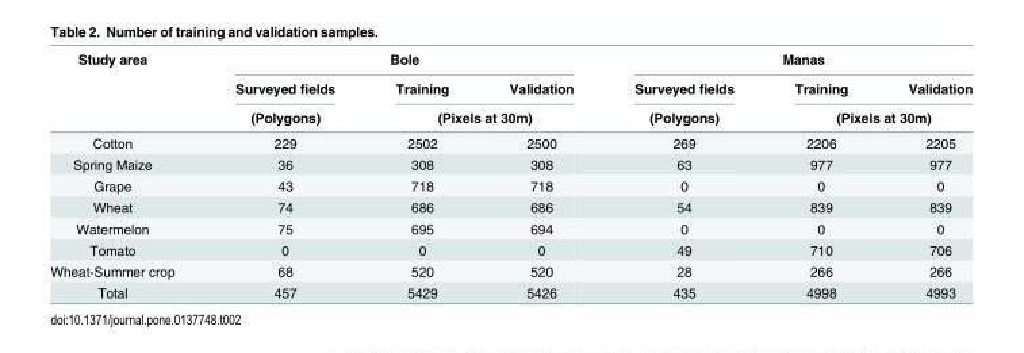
<table><thead><tr><td rowspan="3">Study area</td><td colspan="3">Bole</td><td colspan="3">Manas</td></tr><tr><td rowspan="2">Surveyed fields (Polygons)</td><td>Training</td><td>Validation</td><td rowspan="2">Surveyed fields (Polygons)</td><td>Training</td><td>Validation</td></tr><tr><td colspan="2">(Pixels at 30m)</td><td colspan="2">(Pixels at 30m)</td></tr></thead><tbody><tr><td>Cotton</td><td>229</td><td>2502</td><td>2500</td><td>269</td><td>2206</td><td>2205</td></tr><tr><td>Spring Maize</td><td>36</td><td>308</td><td>308</td><td>63</td><td>977</td><td>977</td></tr><tr><td>Grape</td><td>43</td><td>718</td><td>718</td><td>0</td><td>0</td><td>0</td></tr><tr><td>Wheat</td><td>74</td><td>686</td><td>686</td><td>54</td><td>839</td><td>839</td></tr><tr><td>Watermelon</td><td>75</td><td>695</td><td>694</td><td>0</td><td>0</td><td>0</td></tr><tr><td>Tomato</td><td>0</td><td>0</td><td>0</td><td>49</td><td>710</td><td>706</td></tr><tr><td>Wheat-Summer crop</td><td>68</td><td>520</td><td>520</td><td>28</td><td>266</td><td>266</td></tr><tr><td>Total</td><td>457</td><td>5429</td><td>5426</td><td>435</td><td>4998</td><td>4993</td></tr></tbody></table>